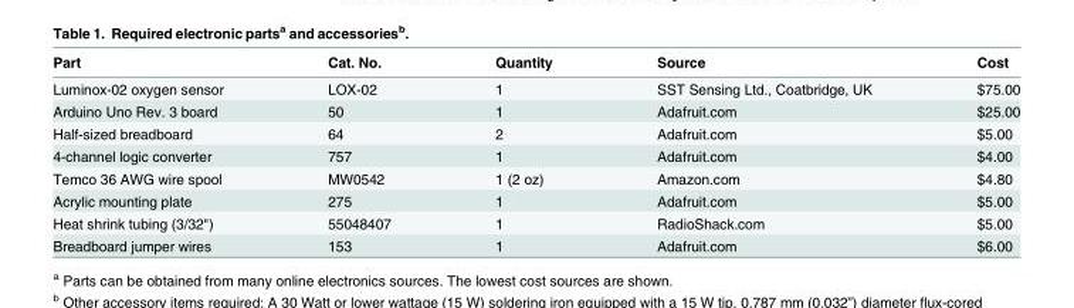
<table><thead><tr><td>Part</td><td>Cat. No.</td><td>Quantity</td><td>Source</td><td>Cost</td></tr></thead><tbody><tr><td>Luminox-02 oxygen sensor</td><td>LOX-02</td><td>1</td><td>SST Sensing Ltd., Coatbridge, UK</td><td>$75.00</td></tr><tr><td>Arduino Uno Rev. 3 board</td><td>50</td><td>1</td><td>Adafruit.com</td><td>$25.00</td></tr><tr><td>Half-sized breadboard</td><td>64</td><td>2</td><td>Adafruit.com</td><td>$5.00</td></tr><tr><td>4-channel logic converter</td><td>757</td><td>1</td><td>Adafruit.com</td><td>$4.00</td></tr><tr><td>Temco 36 AWG wire spool</td><td>MW0542</td><td>1 (2 oz)</td><td>Amazon.com</td><td>$4.80</td></tr><tr><td>Acrylic mounting plate</td><td>275</td><td>1</td><td>Adafruit.com</td><td>$5.00</td></tr><tr><td>Heat shrink tubing (3/32&quot;)</td><td>55048407</td><td>1</td><td>RadioShack.com</td><td>$5.00</td></tr><tr><td>Breadboard jumper wires</td><td>153</td><td>1</td><td>Adafruit.com</td><td>$6.00</td></tr></tbody></table>